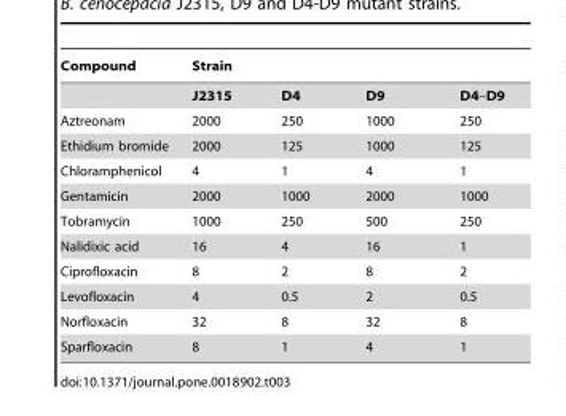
<table><thead><tr><td rowspan="2">Compound</td><td colspan="4">Strain</td></tr><tr><td>J2315</td><td>D4</td><td>D9</td><td>D4–D9</td></tr></thead><tbody><tr><td>Aztreonam</td><td>2000</td><td>250</td><td>1000</td><td>250</td></tr><tr><td>Ethidium bromide</td><td>2000</td><td>125</td><td>1000</td><td>125</td></tr><tr><td>Chloramphenicol</td><td>4</td><td>1</td><td>4</td><td>1</td></tr><tr><td>Gentamicin</td><td>2000</td><td>1000</td><td>2000</td><td>1000</td></tr><tr><td>Tobramycin</td><td>1000</td><td>250</td><td>500</td><td>250</td></tr><tr><td>Nalidixic acid</td><td>16</td><td>4</td><td>16</td><td>1</td></tr><tr><td>Ciprofloxacin</td><td>8</td><td>2</td><td>8</td><td>2</td></tr><tr><td>Levofloxacin</td><td>4</td><td>0.5</td><td>2</td><td>0.5</td></tr><tr><td>Norfloxacin</td><td>32</td><td>8</td><td>32</td><td>8</td></tr><tr><td>Sparfloxacin</td><td>8</td><td>1</td><td>4</td><td>1</td></tr></tbody></table>